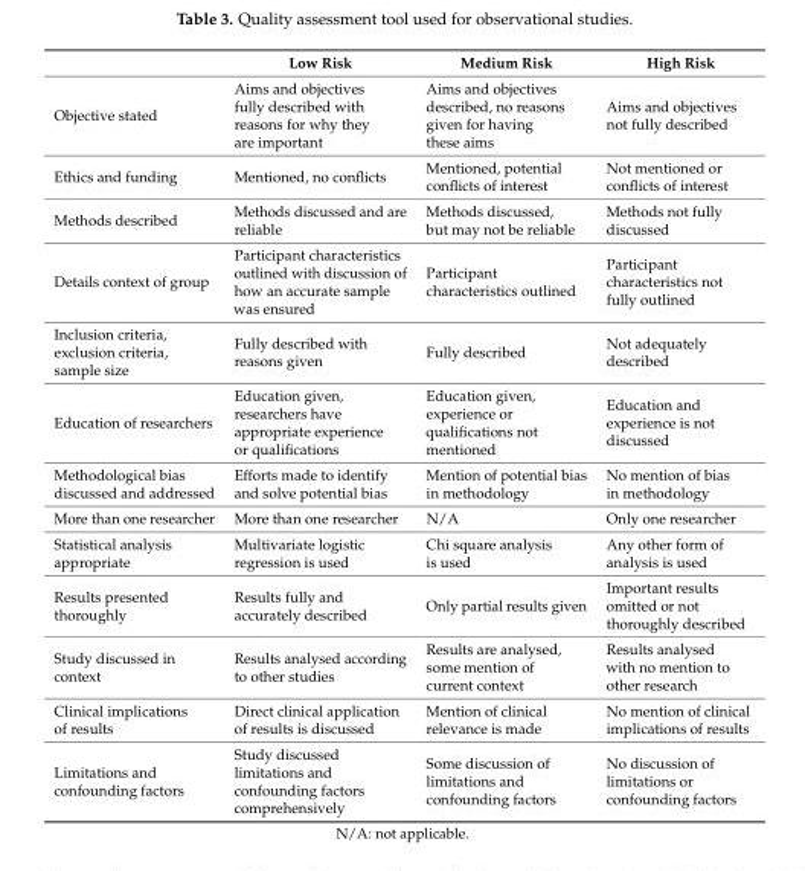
<table><thead><tr><td></td><td>Low Risk</td><td>Medium Risk</td><td>High Risk</td></tr></thead><tbody><tr><td>Objective stated</td><td>Aims and objectives fully described with reasons for why they are important</td><td>Aims and objectives described, no reasons given for having these aims</td><td>Aims and objectives not fully described</td></tr><tr><td>Ethics and funding</td><td>Mentioned, no conflicts</td><td>Mentioned, potential conflicts of interest</td><td>Not mentioned or conflicts of interest</td></tr><tr><td>Methods described</td><td>Methods discussed and are reliable</td><td>Methods discussed, but may not be reliable</td><td>Methods not fully discussed</td></tr><tr><td>Details context of group</td><td>Participant characteristics outlined with discussion of how an accurate sample was ensured</td><td>Participant characteristics outlined</td><td>Participant characteristics not fully outlined</td></tr><tr><td>Inclusion criteria, exclusion criteria, sample size</td><td>Fully described with reasons given</td><td>Fully described</td><td>Not adequately described</td></tr><tr><td>Education of researchers</td><td>Education given, researchers have appropriate experience or qualifications</td><td>Education given, experience or qualifications not mentioned</td><td>Education and experience is not discussed</td></tr><tr><td>Methodological bias discussed and addressed</td><td>Efforts made to identify and solve potential bias</td><td>Mention of potential bias in methodology</td><td>No mention of bias in methodology</td></tr><tr><td>More than one researcher</td><td>More than one researcher</td><td>N/A</td><td>Only one researcher</td></tr><tr><td>Statistical analysis appropriate</td><td>Multivariate logistic regression is used</td><td>Chi square analysis is used</td><td>Any other form of analysis is used</td></tr><tr><td>Results presented thoroughly</td><td>Results fully and accurately described</td><td>Only partial results given</td><td>Important results omitted or not thoroughly described</td></tr><tr><td>Study discussed in context</td><td>Results analysed according to other studies</td><td>Results are analysed, some mention of current context</td><td>Results analysed with no mention to other research</td></tr><tr><td>Clinical implications of results</td><td>Direct clinical application of results is discussed</td><td>Mention of clinical relevance is made</td><td>No mention of clinical implications of results</td></tr><tr><td>Limitations and confounding factors</td><td>Study discussed limitations and confounding factors comprehensively</td><td>Some discussion of limitations and confounding factors</td><td>No discussion of limitations or confounding factors</td></tr></tbody></table>